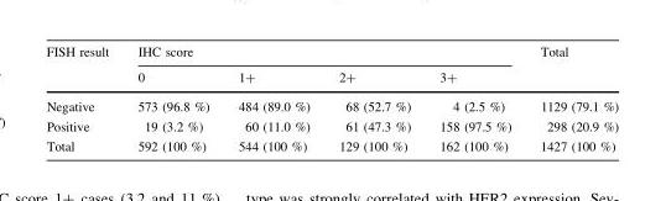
<table><thead><tr><td rowspan="2">FISH result</td><td colspan="4">IHC score</td><td rowspan="2">Total</td></tr><tr><td>0</td><td>1+</td><td>2+</td><td>3+</td></tr></thead><tbody><tr><td>Negative</td><td>573 (96.8 %)</td><td>484 (89.0 %)</td><td>68 (52.7 %)</td><td>4 (2.5 %)</td><td>1129 (79.1 %)</td></tr><tr><td>Positive</td><td>19 (3.2 %)</td><td>60 (11.0 %)</td><td>61 (47.3 %)</td><td>158 (97.5 %)</td><td>298 (20.9 %)</td></tr><tr><td>Total</td><td>592 (100 %)</td><td>544 (100 %)</td><td>129 (100 %)</td><td>162 (100 %)</td><td>1427 (100 %)</td></tr></tbody></table>